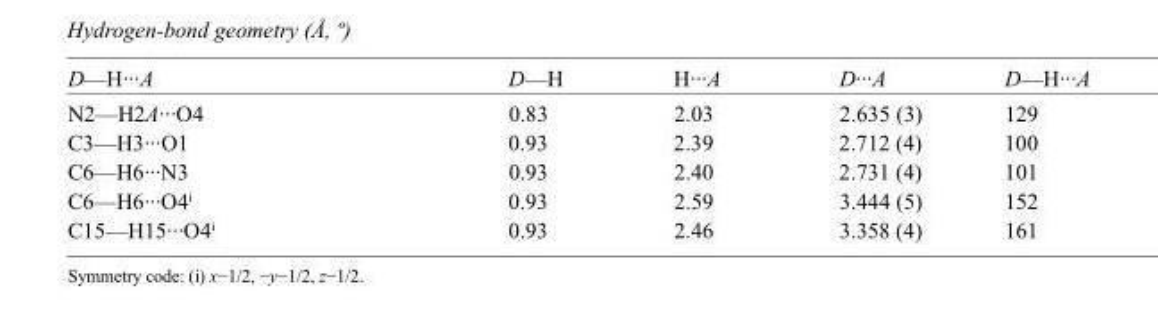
<table><tbody><tr><td>D—H···A</td><td>D—H</td><td>H···A</td><td>D···A</td><td>D—H···A</td></tr><tr><td>N2—H2A···O4</td><td>0.83</td><td>2.03</td><td>2.635 (3)</td><td>129</td></tr><tr><td>C3—H3···O1</td><td>0.93</td><td>2.39</td><td>2.712 (4)</td><td>100</td></tr><tr><td>C6—H6···N3</td><td>0.93</td><td>2.40</td><td>2.731 (4)</td><td>101</td></tr><tr><td>C6—H6···O4<sup>i</sup></td><td>0.93</td><td>2.59</td><td>3.444 (5)</td><td>152</td></tr><tr><td>C15—H15···O4<sup>i</sup></td><td>0.93</td><td>2.46</td><td>3.358 (4)</td><td>161</td></tr></tbody></table>